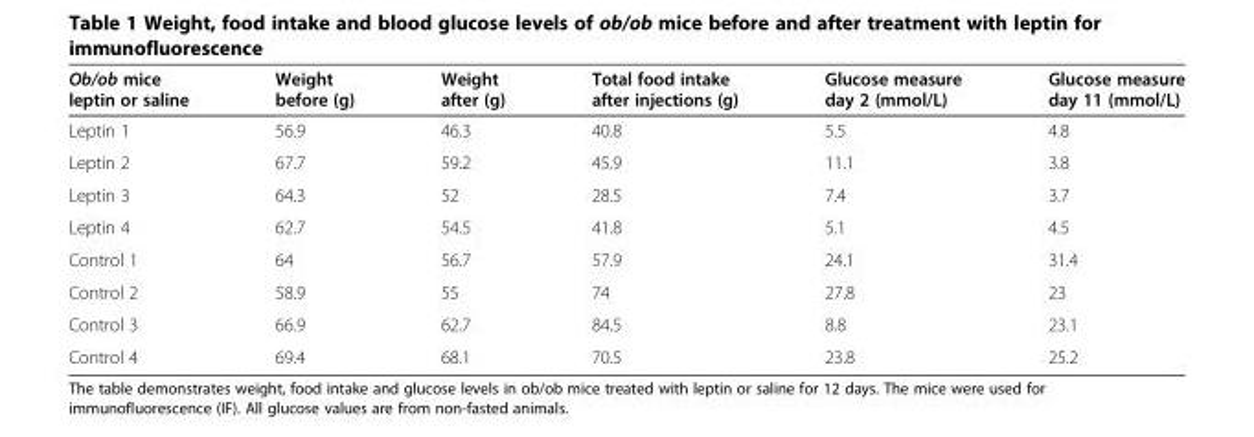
<table><thead><tr><td>Ob/ob mice leptin or saline</td><td>Weight before (g)</td><td>Weight after (g)</td><td>Total food intake after injections (g)</td><td>Glucose measure day 2 (mmol/L)</td><td>Glucose measure day 11 (mmol/L)</td></tr></thead><tbody><tr><td>Leptin 1</td><td>56.9</td><td>46.3</td><td>40.8</td><td>5.5</td><td>4.8</td></tr><tr><td>Leptin 2</td><td>67.7</td><td>59.2</td><td>45.9</td><td>11.1</td><td>3.8</td></tr><tr><td>Leptin 3</td><td>64.3</td><td>52</td><td>28.5</td><td>7.4</td><td>3.7</td></tr><tr><td>Leptin 4</td><td>62.7</td><td>54.5</td><td>41.8</td><td>5.1</td><td>4.5</td></tr><tr><td>Control 1</td><td>64</td><td>56.7</td><td>57.9</td><td>24.1</td><td>31.4</td></tr><tr><td>Control 2</td><td>58.9</td><td>55</td><td>74</td><td>27.8</td><td>23</td></tr><tr><td>Control 3</td><td>66.9</td><td>62.7</td><td>84.5</td><td>8.8</td><td>23.1</td></tr><tr><td>Control 4</td><td>69.4</td><td>68.1</td><td>70.5</td><td>23.8</td><td>25.2</td></tr></tbody></table>